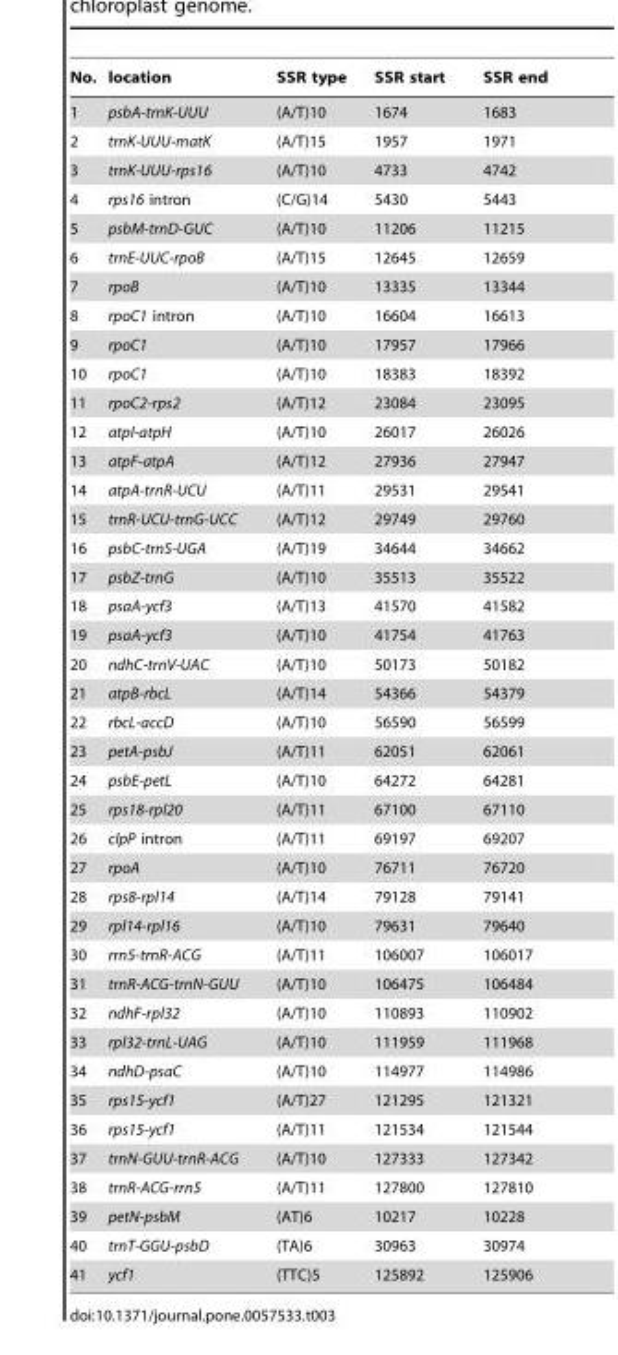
<table><thead><tr><td>No.</td><td>location</td><td>SSR type</td><td>SSR start</td><td>SSR end</td></tr></thead><tbody><tr><td>1</td><td>psbA-trnK-UUU</td><td>(A/T)10</td><td>1674</td><td>1683</td></tr><tr><td>2</td><td>trnK-UUU-matK</td><td>(A/T)15</td><td>1957</td><td>1971</td></tr><tr><td>3</td><td>trnK-UUU-rps16</td><td>(A/T)10</td><td>4733</td><td>4742</td></tr><tr><td>4</td><td>rps16 intron</td><td>(C/G)14</td><td>5430</td><td>5443</td></tr><tr><td>5</td><td>psbM-trnD-GUC</td><td>(A/T)10</td><td>11206</td><td>11215</td></tr><tr><td>6</td><td>trnE-UUC-rpoB</td><td>(A/T)15</td><td>12645</td><td>12659</td></tr><tr><td>7</td><td>rpoB</td><td>(A/T)10</td><td>13335</td><td>13344</td></tr><tr><td>8</td><td>rpoC1 intron</td><td>(A/T)10</td><td>16604</td><td>16613</td></tr><tr><td>9</td><td>rpoC1</td><td>(A/T)10</td><td>17957</td><td>17966</td></tr><tr><td>10</td><td>rpoC1</td><td>(A/T)10</td><td>18383</td><td>18392</td></tr><tr><td>11</td><td>rpoC2-rps2</td><td>(A/T)12</td><td>23084</td><td>23095</td></tr><tr><td>12</td><td>atpI-atpH</td><td>(A/T)10</td><td>26017</td><td>26026</td></tr><tr><td>13</td><td>atpF-atpA</td><td>(A/T)12</td><td>27936</td><td>27947</td></tr><tr><td>14</td><td>atpA-trnR-UCU</td><td>(A/T)11</td><td>29531</td><td>29541</td></tr><tr><td>15</td><td>trnR-UCU-trnG-UCC</td><td>(A/T)12</td><td>29749</td><td>29760</td></tr><tr><td>16</td><td>psbC-trnS-UGA</td><td>(A/T)19</td><td>34644</td><td>34662</td></tr><tr><td>17</td><td>psbZ-trnG</td><td>(A/T)10</td><td>35513</td><td>35522</td></tr><tr><td>18</td><td>psaA-ycf3</td><td>(A/T)13</td><td>41570</td><td>41582</td></tr><tr><td>19</td><td>psaA-ycf3</td><td>(A/T)10</td><td>41754</td><td>41763</td></tr><tr><td>20</td><td>ndhC-trnV-UAC</td><td>(A/T)10</td><td>50173</td><td>50182</td></tr><tr><td>21</td><td>atpB-rbcL</td><td>(A/T)14</td><td>54366</td><td>54379</td></tr><tr><td>22</td><td>rbcL-accD</td><td>(A/T)10</td><td>56590</td><td>56599</td></tr><tr><td>23</td><td>petA-psbJ</td><td>(A/T)11</td><td>62051</td><td>62061</td></tr><tr><td>24</td><td>psbE-petL</td><td>(A/T)10</td><td>64272</td><td>64281</td></tr><tr><td>25</td><td>rps18-rpl20</td><td>(A/T)11</td><td>67100</td><td>67110</td></tr><tr><td>26</td><td>clpP intron</td><td>(A/T)11</td><td>69197</td><td>69207</td></tr><tr><td>27</td><td>rpoA</td><td>(A/T)10</td><td>76711</td><td>76720</td></tr><tr><td>28</td><td>rps8-rpl14</td><td>(A/T)14</td><td>79128</td><td>79141</td></tr><tr><td>29</td><td>rpl14-rpl16</td><td>(A/T)10</td><td>79631</td><td>79640</td></tr><tr><td>30</td><td>rrn5-trnR-ACG</td><td>(A/T)11</td><td>106007</td><td>106017</td></tr><tr><td>31</td><td>trnR-ACG-trnN-GUU</td><td>(A/T)10</td><td>106475</td><td>106484</td></tr><tr><td>32</td><td>ndhF-rpl32</td><td>(A/T)10</td><td>110893</td><td>110902</td></tr><tr><td>33</td><td>rpl32-trnL-UAG</td><td>(A/T)10</td><td>111959</td><td>111968</td></tr><tr><td>34</td><td>ndhD-psaC</td><td>(A/T)10</td><td>114977</td><td>114986</td></tr><tr><td>35</td><td>rps15-ycf1</td><td>(A/T)27</td><td>121295</td><td>121321</td></tr><tr><td>36</td><td>rps15-ycf1</td><td>(A/T)11</td><td>121534</td><td>121544</td></tr><tr><td>37</td><td>trnN-GUU-trnR-ACG</td><td>(A/T)10</td><td>127333</td><td>127342</td></tr><tr><td>38</td><td>trnR-ACG-rrn5</td><td>(A/T)11</td><td>127800</td><td>127810</td></tr><tr><td>39</td><td>petN-psbM</td><td>(AT)6</td><td>10217</td><td>10228</td></tr><tr><td>40</td><td>trnT-GGU-psbD</td><td>(TA)6</td><td>30963</td><td>30974</td></tr><tr><td>41</td><td>ycf1</td><td>(TTC)5</td><td>125892</td><td>125906</td></tr></tbody></table>